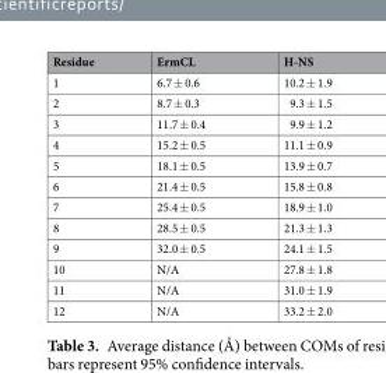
<table><thead><tr><td>Residue</td><td>ErmCL</td><td>H-NS</td></tr></thead><tbody><tr><td>1</td><td>6.7 ± 0.6</td><td>10.2 ± 1.9</td></tr><tr><td>2</td><td>8.7 ± 0.3</td><td>9.3 ± 1.5</td></tr><tr><td>3</td><td>11.7 ± 0.4</td><td>9.9 ± 1.2</td></tr><tr><td>4</td><td>15.2 ± 0.5</td><td>11.1 ± 0.9</td></tr><tr><td>5</td><td>18.1 ± 0.5</td><td>13.9 ± 0.7</td></tr><tr><td>6</td><td>21.4 ± 0.5</td><td>15.8 ± 0.8</td></tr><tr><td>7</td><td>25.4 ± 0.5</td><td>18.9 ± 1.0</td></tr><tr><td>8</td><td>28.5 ± 0.5</td><td>21.3 ± 1.3</td></tr><tr><td>9</td><td>32.0 ± 0.5</td><td>24.1 ± 1.5</td></tr><tr><td>10</td><td>N/A</td><td>27.8 ± 1.8</td></tr><tr><td>11</td><td>N/A</td><td>31.0 ± 1.9</td></tr><tr><td>12</td><td>N/A</td><td>33.2 ± 2.0</td></tr></tbody></table>